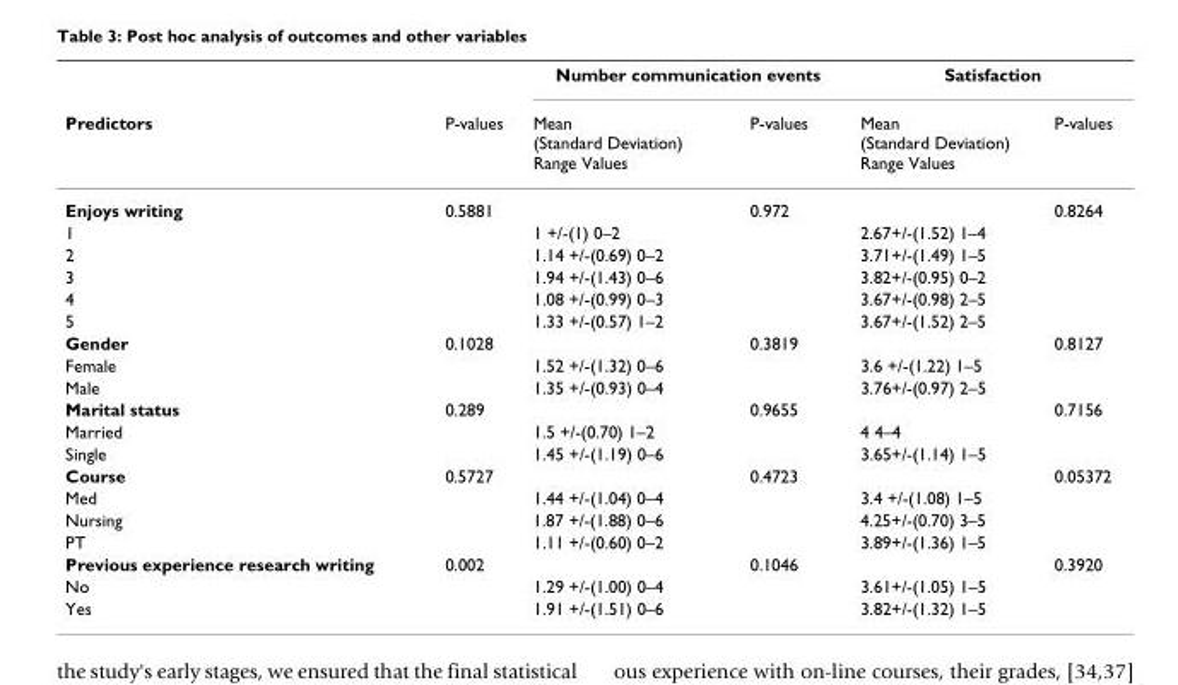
<table><thead><tr><td rowspan="2">Predictors</td><td rowspan="2">P-values</td><td colspan="2">Number communication events</td><td colspan="2">Satisfaction</td></tr><tr><td>Mean (Standard Deviation) Range Values</td><td>P-values</td><td>Mean (Standard Deviation) Range Values</td><td>P-values</td></tr></thead><tbody><tr><td>Enjoys writing</td><td>0.5881</td><td></td><td>0.972</td><td></td><td>0.8264</td></tr><tr><td>1</td><td></td><td>1 +/-(1) 0–2</td><td></td><td>2.67+/-(1.52) 1–4</td><td></td></tr><tr><td>2</td><td></td><td>1.14 +/-(0.69) 0–2</td><td></td><td>3.71+/-(1.49) 1–5</td><td></td></tr><tr><td>3</td><td></td><td>1.94 +/-(1.43) 0–6</td><td></td><td>3.82+/-(0.95) 0–2</td><td></td></tr><tr><td>4</td><td></td><td>1.08 +/-(0.99) 0–3</td><td></td><td>3.67+/-(0.98) 2–5</td><td></td></tr><tr><td>5</td><td></td><td>1.33 +/-(0.57) 1–2</td><td></td><td>3.67+/-(1.52) 2–5</td><td></td></tr><tr><td>Gender</td><td>0.1028</td><td></td><td>0.3819</td><td></td><td>0.8127</td></tr><tr><td>Female</td><td></td><td>1.52 +/-(1.32) 0–6</td><td></td><td>3.6 +/-(1.22) 1–5</td><td></td></tr><tr><td>Male</td><td></td><td>1.35 +/-(0.93) 0–4</td><td></td><td>3.76+/-(0.97) 2–5</td><td></td></tr><tr><td>Marital status</td><td>0.289</td><td></td><td>0.9655</td><td></td><td>0.7156</td></tr><tr><td>Married</td><td></td><td>1.5 +/-(0.70) 1–2</td><td></td><td>4 4–4</td><td></td></tr><tr><td>Single</td><td></td><td>1.45 +/-(1.19) 0–6</td><td></td><td>3.65+/-(1.14) 1–5</td><td></td></tr><tr><td>Course</td><td>0.5727</td><td></td><td>0.4723</td><td></td><td>0.05372</td></tr><tr><td>Med</td><td></td><td>1.44 +/-(1.04) 0–4</td><td></td><td>3.4 +/-(1.08) 1–5</td><td></td></tr><tr><td>Nursing</td><td></td><td>1.87 +/-(1.88) 0–6</td><td></td><td>4.25+/-(0.70) 3–5</td><td></td></tr><tr><td>PT</td><td></td><td>1.11 +/-(0.60) 0–2</td><td></td><td>3.89+/-(1.36) 1–5</td><td></td></tr><tr><td>Previous experience research writing</td><td>0.002</td><td></td><td>0.1046</td><td></td><td>0.3920</td></tr><tr><td>No</td><td></td><td>1.29 +/-(1.00) 0–4</td><td></td><td>3.61+/-(1.05) 1–5</td><td></td></tr><tr><td>Yes</td><td></td><td>1.91 +/-(1.51) 0–6</td><td></td><td>3.82+/-(1.32) 1–5</td><td></td></tr></tbody></table>